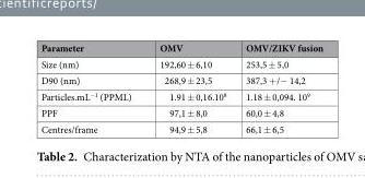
<table><thead><tr><td>Parameter</td><td>OMV</td><td>OMV/ZIKV fusion</td></tr></thead><tbody><tr><td>Size (nm)</td><td>192,60 ± 6,10</td><td>253,5 ± 5,0</td></tr><tr><td>D90 (nm)</td><td>268,9 ± 23,5</td><td>387,3 +/− 14,2</td></tr><tr><td>Particles.mL<sup>−1</sup> (PPML)</td><td>1.91 ± 0,16.10<sup>8</sup></td><td>1.18 ± 0,094. 10<sup>9</sup></td></tr><tr><td>PPF</td><td>97,1 ± 8,0</td><td>60,0 ± 4,8</td></tr><tr><td>Centres/frame</td><td>94,9 ± 5,8</td><td>66,1 ± 6,5</td></tr></tbody></table>